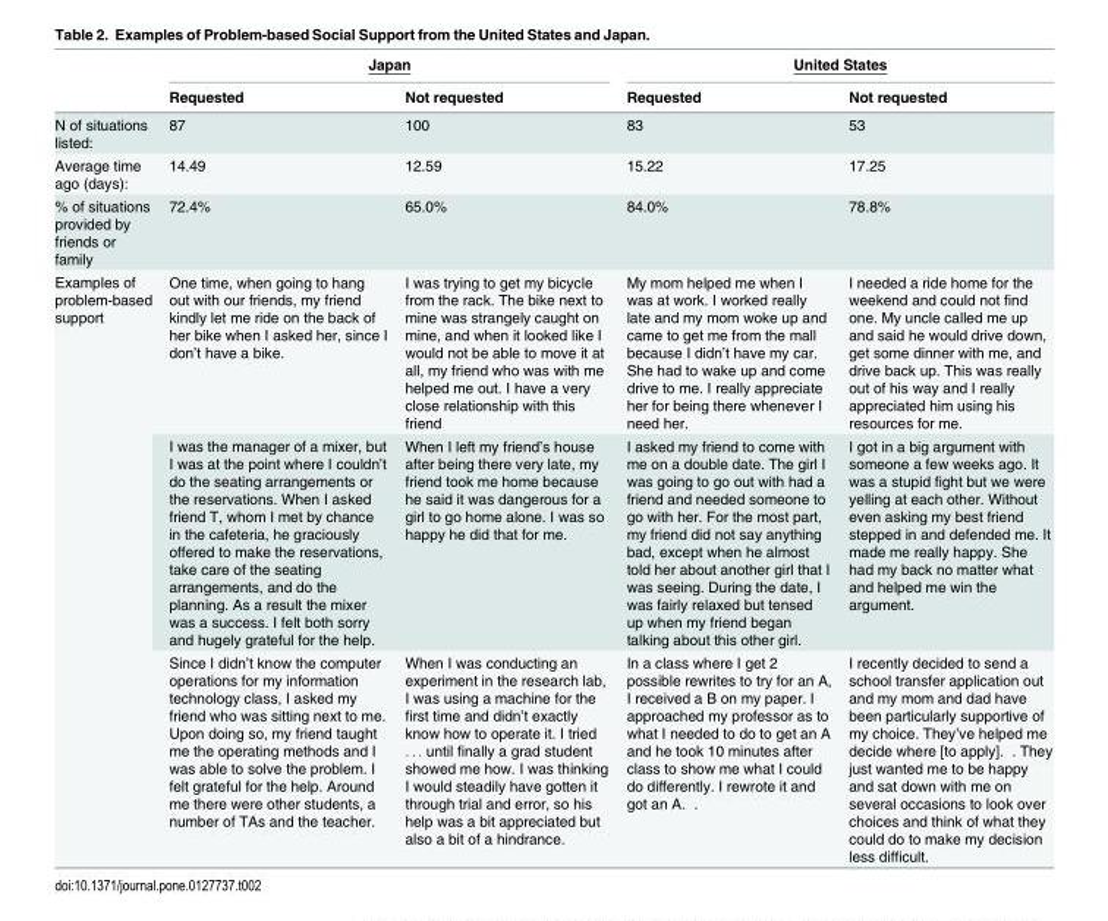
<table><thead><tr><td rowspan="2"></td><td colspan="2">Japan</td><td colspan="2">United States</td></tr><tr><td>Requested</td><td>Not requested</td><td>Requested</td><td>Not requested</td></tr></thead><tbody><tr><td>N of situations listed:</td><td>87</td><td>100</td><td>83</td><td>53</td></tr><tr><td>Average time ago (days):</td><td>14.49</td><td>12.59</td><td>15.22</td><td>17.25</td></tr><tr><td>% of situations provided by friends or family</td><td>72.4%</td><td>65.0%</td><td>84.0%</td><td>78.8%</td></tr><tr><td rowspan="3">Examples of problem-based support</td><td>One time, when going to hang out with our friends, my friend kindly let me ride on the back of her bike when I asked her, since I don’t have a bike.</td><td>I was trying to get my bicycle from the rack. The bike next to mine was strangely caught on mine, and when it looked like I would not be able to move it at all, my friend who was with me helped me out. I have a very close relationship with this friend</td><td>My mom helped me when I was at work. I worked really late and my mom woke up and came to get me from the mall because I didn’t have my car. She had to wake up and come drive to me. I really appreciate her for being there whenever I need her.</td><td>I needed a ride home for the weekend and could not find one. My uncle called me up and said he would drive down, get some dinner with me, and drive back up. This was really out of his way and I really appreciated him using his resources for me.</td></tr><tr><td>I was the manager of a mixer, but I was at the point where I couldn’t do the seating arrangements or the reservations. When I asked friend T, whom I met by chance in the cafeteria, he graciously offered to make the reservations, take care of the seating arrangements, and do the planning. As a result the mixer was a success. I felt both sorry and hugely grateful for the help.</td><td>When I left my friend’s house after being there very late, my friend took me home because he said it was dangerous for a girl to go home alone. I was so happy he did that for me.</td><td>I asked my friend to come with me on a double date. The girl I was going to go out with had a friend and needed someone to go with her. For the most part, my friend did not say anything bad, except when he almost told her about another girl that I was seeing. During the date, I was fairly relaxed but tensed up when my friend began talking about this other girl.</td><td>I got in a big argument with someone a few weeks ago. It was a stupid fight but we were yelling at each other. Without even asking my best friend stepped in and defended me. It made me really happy. She had my back no matter what and helped me win the argument.</td></tr><tr><td>Since I didn’t know the computer operations for my information technology class, I asked my friend who was sitting next to me. Upon doing so, my friend taught me the operating methods and I was able to solve the problem. I felt grateful for the help. Around me there were other students, a number of TAs and the teacher.</td><td>When I was conducting an experiment in the research lab, I was using a machine for the first time and didn’t exactly know how to operate it. I tried . . . until finally a grad student showed me how. I was thinking I would steadily have gotten it through trial and error, so his help was a bit appreciated but also a bit of a hindrance.</td><td>In a class where I get 2 possible rewrites to try for an A, I received a B on my paper. I approached my professor as to what I needed to do to get an A and he took 10 minutes after class to show me what I could do differently. I rewrote it and got an A. .</td><td>I recently decided to send a school transfer application out and my mom and dad have been particularly supportive of my choice. They’ve helped me decide where [to apply]. . They just wanted me to be happy and sat down with me on several occasions to look over choices and think of what they could do to make my decision less difficult.</td></tr></tbody></table>